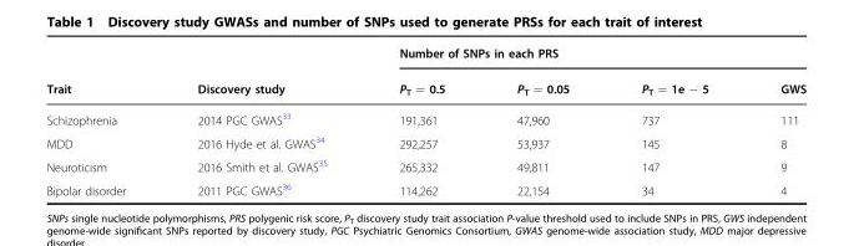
<table><thead><tr><td rowspan="2">Trait</td><td rowspan="2">Discovery study</td><td colspan="4">Number of SNPs in each PRS</td></tr><tr><td>P<sub>T</sub> = 0.5</td><td>P<sub>T</sub> = 0.05</td><td>P<sub>T</sub> = 1e − 5</td><td>GWS</td></tr></thead><tbody><tr><td>Schizophrenia</td><td>2014 PGC GWAS<sup>33</sup></td><td>191,361</td><td>47,960</td><td>737</td><td>111</td></tr><tr><td>MDD</td><td>2016 Hyde et al. GWAS<sup>34</sup></td><td>292,257</td><td>53,937</td><td>145</td><td>8</td></tr><tr><td>Neuroticism</td><td>2016 Smith et al. GWAS<sup>35</sup></td><td>265,332</td><td>49,811</td><td>147</td><td>9</td></tr><tr><td>Bipolar disorder</td><td>2011 PGC GWAS<sup>36</sup></td><td>114,262</td><td>22,154</td><td>34</td><td>4</td></tr></tbody></table>